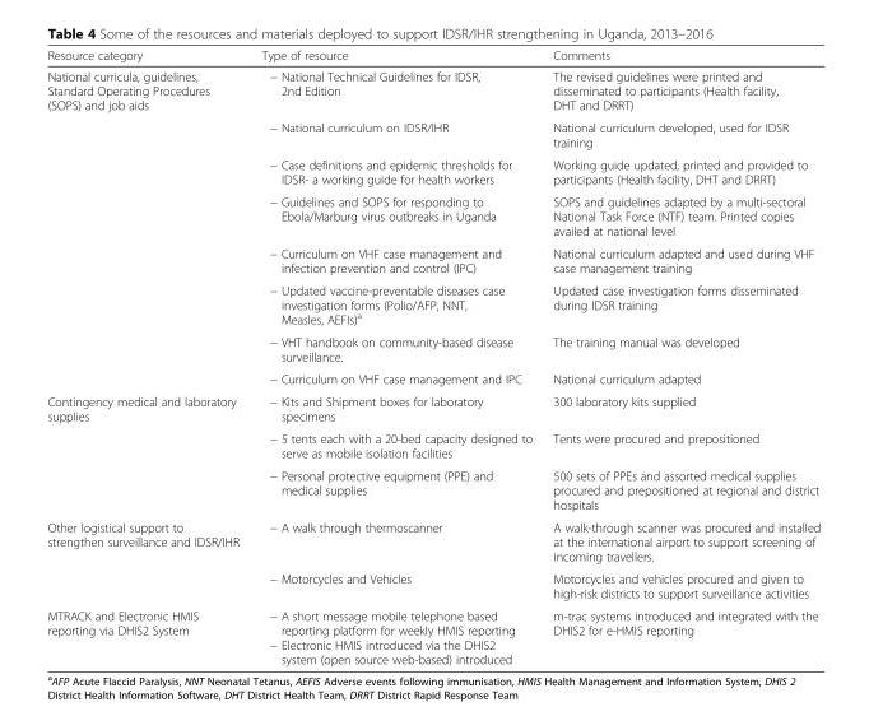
<table><thead><tr><td>Resource category</td><td>Type of resource</td><td>Comments</td></tr></thead><tbody><tr><td rowspan="8">National curricula, guidelines, Standard Operating Procedures (SOPS) and job aids</td><td>− National Technical Guidelines for IDSR, 2nd Edition</td><td>The revised guidelines were printed and disseminated to participants (Health facility, DHT and DRRT)</td></tr><tr><td>− National curriculum on IDSR/IHR</td><td>National curriculum developed, used for IDSR training</td></tr><tr><td>− Case definitions and epidemic thresholds for IDSR- a working guide for health workers</td><td>Working guide updated, printed and provided to participants (Health facility, DHT and DRRT)</td></tr><tr><td>− Guidelines and SOPS for responding to Ebola/Marburg virus outbreaks in Uganda</td><td>SOPS and guidelines adapted by a multi-sectoral National Task Force (NTF) team. Printed copies availed at national level</td></tr><tr><td>− Curriculum on VHF case management and infection prevention and control (IPC)</td><td>National curriculum adapted and used during VHF case management training</td></tr><tr><td>− Updated vaccine-preventable diseases case investigation forms (Polio/AFP, NNT, Measles, AEFIs)<sup>a</sup></td><td>Updated case investigation forms disseminated during IDSR training</td></tr><tr><td>− VHT handbook on community-based disease surveillance.</td><td>The training manual was developed</td></tr><tr><td>− Curriculum on VHF case management and IPC</td><td>National curriculum adapted</td></tr><tr><td rowspan="3">Contingency medical and laboratory supplies</td><td>− Kits and Shipment boxes for laboratory specimens</td><td>300 laboratory kits supplied</td></tr><tr><td>− 5 tents each with a 20-bed capacity designed to serve as mobile isolation facilities</td><td>Tents were procured and prepositioned</td></tr><tr><td>− Personal protective equipment (PPE) and medical supplies</td><td>500 sets of PPEs and assorted medical supplies procured and prepositioned at regional and district hospitals</td></tr><tr><td rowspan="2">Other logistical support to strengthen surveillance and IDSR/IHR</td><td>− A walk through thermoscanner</td><td>A walk-through scanner was procured and installed at the international airport to support screening of incoming travellers.</td></tr><tr><td>− Motorcycles and Vehicles</td><td>Motorcycles and vehicles procured and given to high-risk districts to support surveillance activities</td></tr><tr><td>MTRACK and Electronic HMIS reporting via DHIS2 System</td><td>− A short message mobile telephone based reporting platform for weekly HMIS reporting − Electronic HMIS introduced via the DHIS2 system (open source web-based) introduced</td><td>m-trac systems introduced and integrated with the DHIS2 for e-HMIS reporting</td></tr></tbody></table>